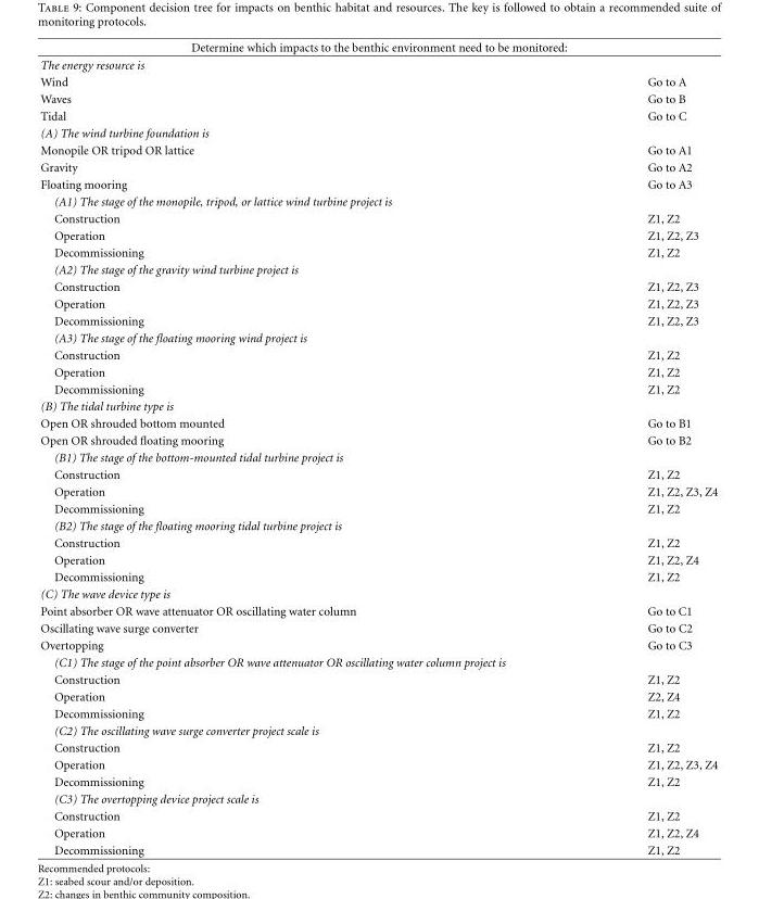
<table><thead><tr><td colspan="2">Determine which impacts to the benthic environment need to be monitored:</td></tr><tr><td>The energy resource is</td><td></td></tr></thead><tbody><tr><td>Wind</td><td>Go to A</td></tr><tr><td>Waves</td><td>Go to B</td></tr><tr><td>Tidal</td><td>Go to C</td></tr><tr><td colspan="2">(A) The wind turbine foundation is</td></tr><tr><td>Monopile OR tripod OR lattice</td><td>Go to A1</td></tr><tr><td>Gravity</td><td>Go to A2</td></tr><tr><td>Floating mooring</td><td>Go to A3</td></tr><tr><td colspan="2">(A1) The stage of the monopile, tripod, or lattice wind turbine project is</td></tr><tr><td>Construction</td><td>Z1, Z2</td></tr><tr><td>Operation</td><td>Z1, Z2, Z3</td></tr><tr><td>Decommissioning</td><td>Z1, Z2</td></tr><tr><td colspan="2">(A2) The stage of the gravity wind turbine project is</td></tr><tr><td>Construction</td><td>Z1, Z2, Z3</td></tr><tr><td>Operation</td><td>Z1, Z2, Z3</td></tr><tr><td>Decommissioning</td><td>Z1, Z2, Z3</td></tr><tr><td colspan="2">(A3) The stage of the floating mooring wind project is</td></tr><tr><td>Construction</td><td>Z1, Z2</td></tr><tr><td>Operation</td><td>Z1, Z2</td></tr><tr><td>Decommissioning</td><td>Z1, Z2</td></tr><tr><td colspan="2">(B) The tidal turbine type is</td></tr><tr><td>Open OR shrouded bottom mounted</td><td>Go to B1</td></tr><tr><td>Open OR shrouded floating mooring</td><td>Go to B2</td></tr><tr><td colspan="2">(B1) The stage of the bottom-mounted tidal turbine project is</td></tr><tr><td>Construction</td><td>Z1, Z2</td></tr><tr><td>Operation</td><td>Z1, Z2, Z3, Z4</td></tr><tr><td>Decommissioning</td><td>Z1, Z2</td></tr><tr><td colspan="2">(B2) The stage of the floating mooring tidal turbine project is</td></tr><tr><td>Construction</td><td>Z1, Z2</td></tr><tr><td>Operation</td><td>Z1, Z2, Z4</td></tr><tr><td>Decommissioning</td><td>Z1, Z2</td></tr><tr><td colspan="2">(C) The wave device type is</td></tr><tr><td>Point absorber OR wave attenuator OR oscillating water column</td><td>Go to C1</td></tr><tr><td>Oscillating wave surge converter</td><td>Go to C2</td></tr><tr><td>Overtopping</td><td>Go to C3</td></tr><tr><td colspan="2">(C1) The stage of the point absorber OR wave attenuator OR oscillating water column project is</td></tr><tr><td>Construction</td><td>Z1, Z2</td></tr><tr><td>Operation</td><td>Z2, Z4</td></tr><tr><td>Decommissioning</td><td>Z1, Z2</td></tr><tr><td colspan="2">(C2) The oscillating wave surge converter project scale is</td></tr><tr><td>Construction</td><td>Z1, Z2</td></tr><tr><td>Operation</td><td>Z1, Z2, Z3, Z4</td></tr><tr><td>Decommissioning</td><td>Z1, Z2</td></tr><tr><td colspan="2">(C3) The overtopping device project scale is</td></tr><tr><td>Construction</td><td>Z1, Z2</td></tr><tr><td>Operation</td><td>Z1, Z2, Z4</td></tr><tr><td>Decommissioning</td><td>Z1, Z2</td></tr></tbody></table>